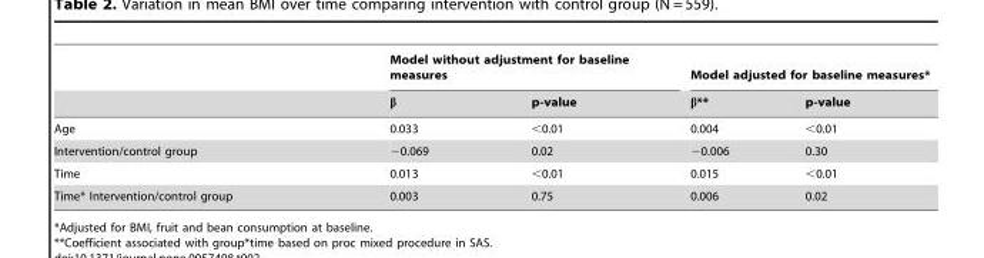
<table><thead><tr><td rowspan="2"></td><td colspan="2">Model without adjustment for baseline measures</td><td colspan="2">Model adjusted for baseline measures*</td></tr><tr><td>β</td><td>p-value</td><td>β**</td><td>p-value</td></tr></thead><tbody><tr><td>Age</td><td>0.033</td><td>&lt;0.01</td><td>0.004</td><td>&lt;0.01</td></tr><tr><td>Intervention/control group</td><td>−0.069</td><td>0.02</td><td>−0.006</td><td>0.30</td></tr><tr><td>Time</td><td>0.013</td><td>&lt;0.01</td><td>0.015</td><td>&lt;0.01</td></tr><tr><td>Time* Intervention/control group</td><td>0.003</td><td>0.75</td><td>0.006</td><td>0.02</td></tr></tbody></table>